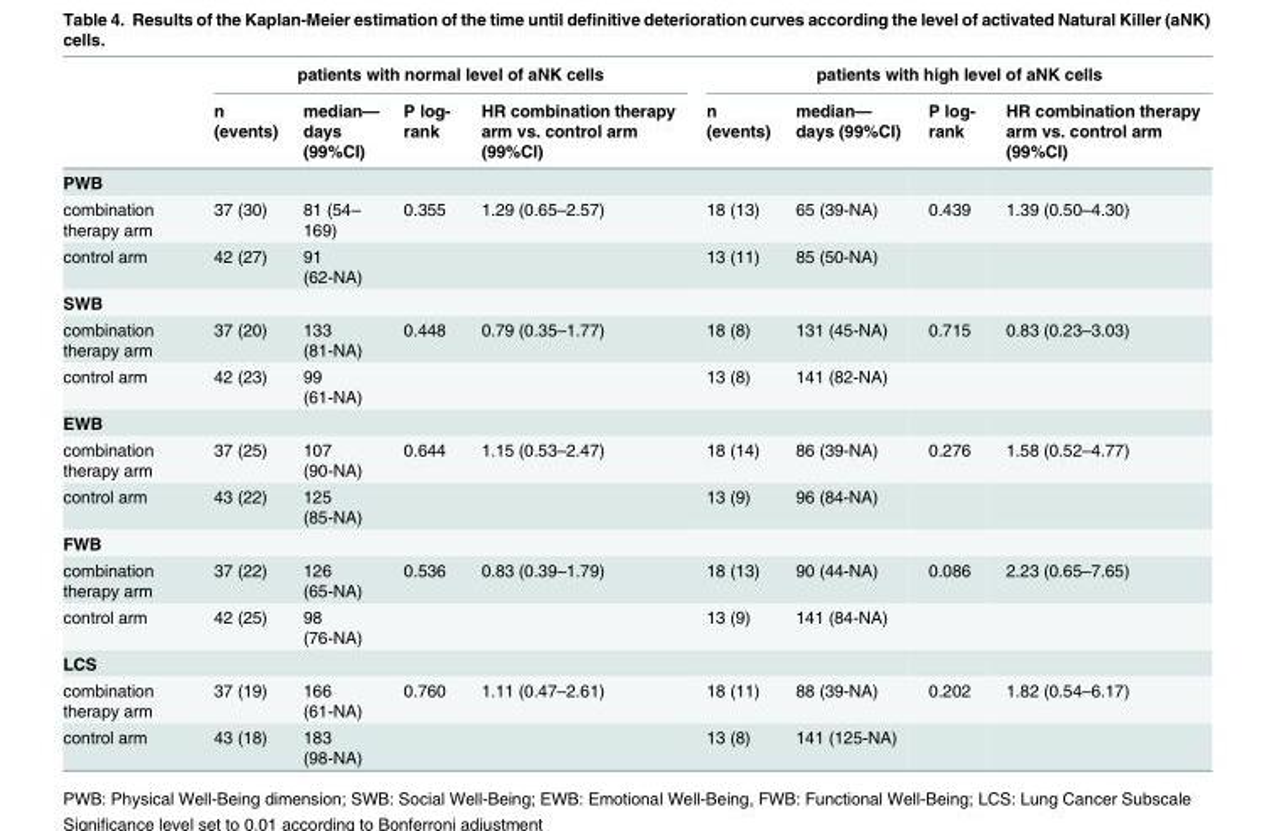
<table><thead><tr><td rowspan="2"></td><td colspan="4">patients with normal level of aNK cells</td><td colspan="4">patients with high level of aNK cells</td></tr><tr><td>n (events)</td><td>median— days (99%CI)</td><td>P log- rank</td><td>HR combination therapy arm vs. control arm (99%CI)</td><td>n (events)</td><td>median— days (99%CI)</td><td>P log- rank</td><td>HR combination therapy arm vs. control arm (99%CI)</td></tr></thead><tbody><tr><td colspan="9">PWB</td></tr><tr><td>combination therapy arm</td><td>37 (30)</td><td>81 (54– 169)</td><td>0.355</td><td>1.29 (0.65–2.57)</td><td>18 (13)</td><td>65 (39-NA)</td><td>0.439</td><td>1.39 (0.50–4.30)</td></tr><tr><td>control arm</td><td>42 (27)</td><td>91 (62-NA)</td><td></td><td></td><td>13 (11)</td><td>85 (50-NA)</td><td></td><td></td></tr><tr><td colspan="9">SWB</td></tr><tr><td>combination therapy arm</td><td>37 (20)</td><td>133 (81-NA)</td><td>0.448</td><td>0.79 (0.35–1.77)</td><td>18 (8)</td><td>131 (45-NA)</td><td>0.715</td><td>0.83 (0.23–3.03)</td></tr><tr><td>control arm</td><td>42 (23)</td><td>99 (61-NA)</td><td></td><td></td><td>13 (8)</td><td>141 (82-NA)</td><td></td><td></td></tr><tr><td colspan="9">EWB</td></tr><tr><td>combination therapy arm</td><td>37 (25)</td><td>107 (90-NA)</td><td>0.644</td><td>1.15 (0.53–2.47)</td><td>18 (14)</td><td>86 (39-NA)</td><td>0.276</td><td>1.58 (0.52–4.77)</td></tr><tr><td>control arm</td><td>43 (22)</td><td>125 (85-NA)</td><td></td><td></td><td>13 (9)</td><td>96 (84-NA)</td><td></td><td></td></tr><tr><td colspan="9">FWB</td></tr><tr><td>combination therapy arm</td><td>37 (22)</td><td>126 (65-NA)</td><td>0.536</td><td>0.83 (0.39–1.79)</td><td>18 (13)</td><td>90 (44-NA)</td><td>0.086</td><td>2.23 (0.65–7.65)</td></tr><tr><td>control arm</td><td>42 (25)</td><td>98 (76-NA)</td><td></td><td></td><td>13 (9)</td><td>141 (84-NA)</td><td></td><td></td></tr><tr><td colspan="9">LCS</td></tr><tr><td>combination therapy arm</td><td>37 (19)</td><td>166 (61-NA)</td><td>0.760</td><td>1.11 (0.47–2.61)</td><td>18 (11)</td><td>88 (39-NA)</td><td>0.202</td><td>1.82 (0.54–6.17)</td></tr><tr><td>control arm</td><td>43 (18)</td><td>183 (98-NA)</td><td></td><td></td><td>13 (8)</td><td>141 (125-NA)</td><td></td><td></td></tr></tbody></table>